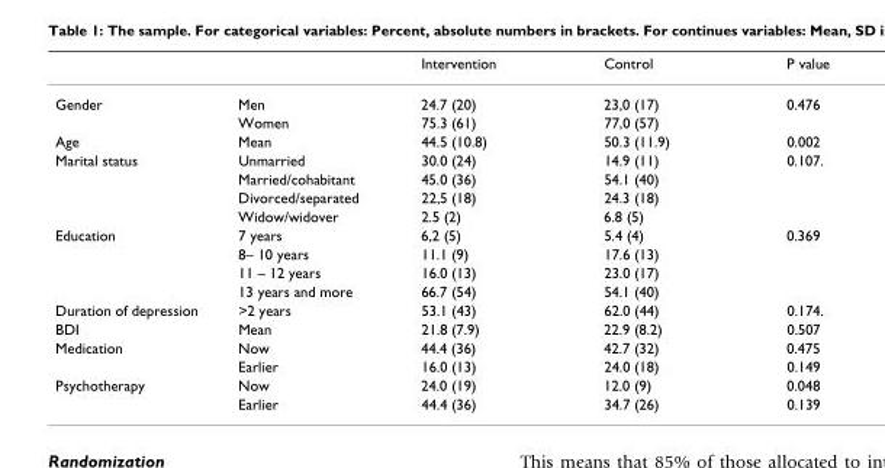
<table><thead><tr><td></td><td></td><td>Intervention</td><td>Control</td><td>P value</td></tr></thead><tbody><tr><td rowspan="2">Gender</td><td>Men</td><td>24.7 (20)</td><td>23,0 (17)</td><td>0.476</td></tr><tr><td>Women</td><td>75.3 (61)</td><td>77,0 (57)</td><td></td></tr><tr><td>Age</td><td>Mean</td><td>44.5 (10.8)</td><td>50.3 (11.9)</td><td>0.002</td></tr><tr><td rowspan="4">Marital status</td><td>Unmarried</td><td>30.0 (24)</td><td>14.9 (11)</td><td>0.107.</td></tr><tr><td>Married/cohabitant</td><td>45.0 (36)</td><td>54.1 (40)</td><td></td></tr><tr><td>Divorced/separated</td><td>22,5 (18)</td><td>24.3 (18)</td><td></td></tr><tr><td>Widow/widover</td><td>2.5 (2)</td><td>6.8 (5)</td><td></td></tr><tr><td rowspan="4">Education</td><td>7 years</td><td>6,2 (5)</td><td>5.4 (4)</td><td>0.369</td></tr><tr><td>8– 10 years</td><td>11.1 (9)</td><td>17.6 (13)</td><td></td></tr><tr><td>11 – 12 years</td><td>16.0 (13)</td><td>23.0 (17)</td><td></td></tr><tr><td>13 years and more</td><td>66.7 (54)</td><td>54.1 (40)</td><td></td></tr><tr><td>Duration of depression</td><td>&gt;2 years</td><td>53.1 (43)</td><td>62.0 (44)</td><td>0.174.</td></tr><tr><td>BDI</td><td>Mean</td><td>21.8 (7.9)</td><td>22.9 (8.2)</td><td>0.507</td></tr><tr><td rowspan="2">Medication</td><td>Now</td><td>44.4 (36)</td><td>42.7 (32)</td><td>0.475</td></tr><tr><td>Earlier</td><td>16.0 (13)</td><td>24.0 (18)</td><td>0.149</td></tr><tr><td rowspan="2">Psychotherapy</td><td>Now</td><td>24.0 (19)</td><td>12.0 (9)</td><td>0.048</td></tr><tr><td>Earlier</td><td>44.4 (36)</td><td>34.7 (26)</td><td>0.139</td></tr></tbody></table>